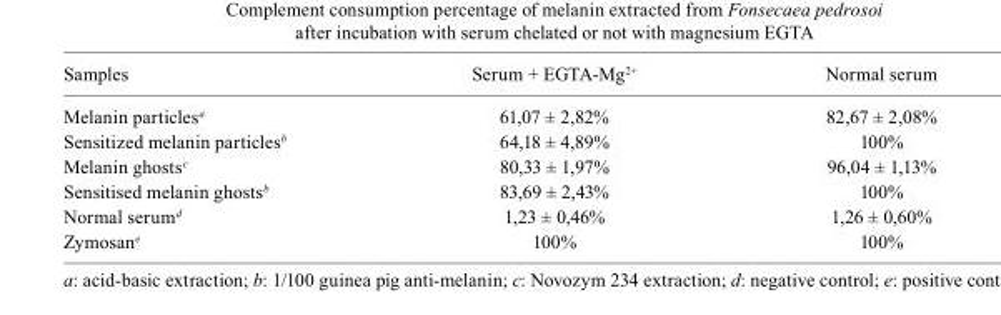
<table><thead><tr><td>Samples</td><td>Serum + EGTA-Mg<sup>2+</sup></td><td>Normal serum</td></tr></thead><tbody><tr><td>Melanin particles<sup>a</sup></td><td>61,07 ± 2,82%</td><td>82,67 ± 2,08%</td></tr><tr><td>Sensitized melanin particles<sup>b</sup></td><td>64,18 ± 4,89%</td><td>100%</td></tr><tr><td>Melanin ghosts<sup>c</sup></td><td>80,33 ± 1,97%</td><td>96,04 ± 1,13%</td></tr><tr><td>Sensitised melanin ghosts<sup>b</sup></td><td>83,69 ± 2,43%</td><td>100%</td></tr><tr><td>Normal serum<sup>d</sup></td><td>1,23 ± 0,46%</td><td>1,26 ± 0,60%</td></tr><tr><td>Zymosan<sup>e</sup></td><td>100%</td><td>100%</td></tr></tbody></table>